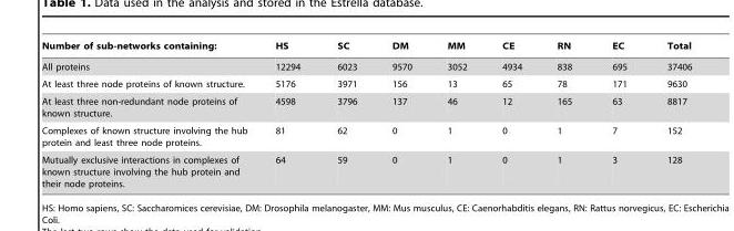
<table><thead><tr><td>Number of sub-networks containing:</td><td>HS</td><td>SC</td><td>DM</td><td>MM</td><td>CE</td><td>RN</td><td>EC</td><td>Total</td></tr></thead><tbody><tr><td>All proteins</td><td>12294</td><td>6023</td><td>9570</td><td>3052</td><td>4934</td><td>838</td><td>695</td><td>37406</td></tr><tr><td>At least three node proteins of known structure.</td><td>5176</td><td>3971</td><td>156</td><td>13</td><td>65</td><td>78</td><td>171</td><td>9630</td></tr><tr><td>At least three non-redundant node proteins of known structure.</td><td>4598</td><td>3796</td><td>137</td><td>46</td><td>12</td><td>165</td><td>63</td><td>8817</td></tr><tr><td>Complexes of known structure involving the hub protein and least three node proteins.</td><td>81</td><td>62</td><td>0</td><td>1</td><td>0</td><td>1</td><td>7</td><td>152</td></tr><tr><td>Mutually exclusive interactions in complexes of known structure involving the hub protein and their node proteins.</td><td>64</td><td>59</td><td>0</td><td>1</td><td>0</td><td>1</td><td>3</td><td>128</td></tr></tbody></table>